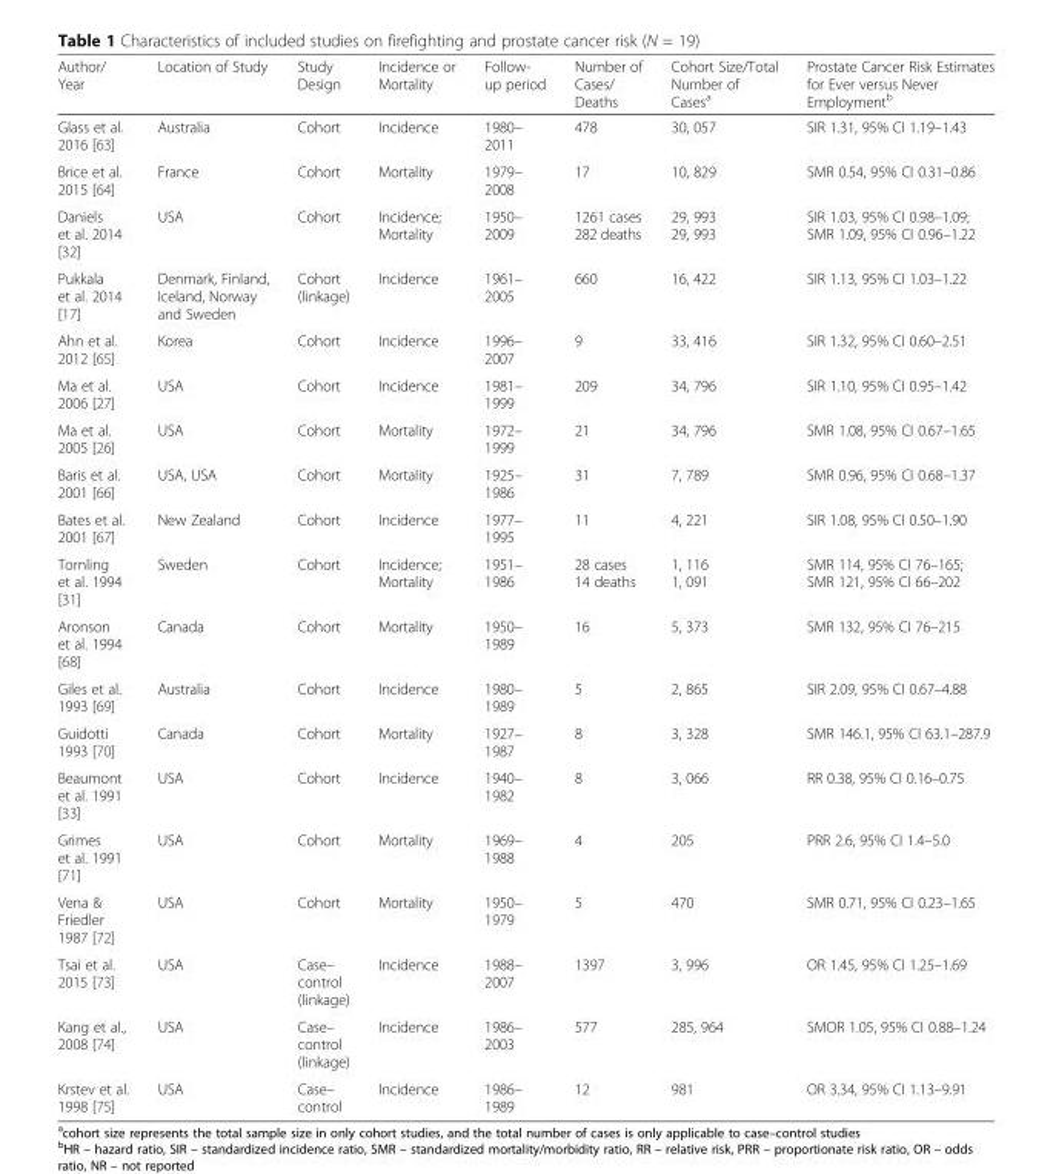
<table><thead><tr><td>Author/ Year</td><td>Location of Study</td><td>Study Design</td><td>Incidence or Mortality</td><td>Follow- up period</td><td>Number of Cases/ Deaths</td><td>Cohort Size/Total Number of Cases<sup>a</sup></td><td>Prostate Cancer Risk Estimates for Ever versus Never Employment<sup>b</sup></td></tr></thead><tbody><tr><td>Glass et al. 2016 [63]</td><td>Australia</td><td>Cohort</td><td>Incidence</td><td>1980– 2011</td><td>478</td><td>30, 057</td><td>SIR 1.31, 95% CI 1.19–1.43</td></tr><tr><td>Brice et al. 2015 [64]</td><td>France</td><td>Cohort</td><td>Mortality</td><td>1979– 2008</td><td>17</td><td>10, 829</td><td>SMR 0.54, 95% CI 0.31–0.86</td></tr><tr><td>Daniels et al. 2014 [32]</td><td>USA</td><td>Cohort</td><td>Incidence; Mortality</td><td>1950– 2009</td><td>1261 cases 282 deaths</td><td>29, 993 29, 993</td><td>SIR 1.03, 95% CI 0.98–1.09; SMR 1.09, 95% CI 0.96–1.22</td></tr><tr><td>Pukkala et al. 2014 [17]</td><td>Denmark, Finland, Iceland, Norway and Sweden</td><td>Cohort (linkage)</td><td>Incidence</td><td>1961– 2005</td><td>660</td><td>16, 422</td><td>SIR 1.13, 95% CI 1.03–1.22</td></tr><tr><td>Ahn et al. 2012 [65]</td><td>Korea</td><td>Cohort</td><td>Incidence</td><td>1996– 2007</td><td>9</td><td>33, 416</td><td>SIR 1.32, 95% CI 0.60–2.51</td></tr><tr><td>Ma et al. 2006 [27]</td><td>USA</td><td>Cohort</td><td>Incidence</td><td>1981– 1999</td><td>209</td><td>34, 796</td><td>SIR 1.10, 95% CI 0.95–1.42</td></tr><tr><td>Ma et al. 2005 [26]</td><td>USA</td><td>Cohort</td><td>Mortality</td><td>1972– 1999</td><td>21</td><td>34, 796</td><td>SMR 1.08, 95% CI 0.67–1.65</td></tr><tr><td>Baris et al. 2001 [66]</td><td>USA, USA</td><td>Cohort</td><td>Mortality</td><td>1925– 1986</td><td>31</td><td>7, 789</td><td>SMR 0.96, 95% CI 0.68–1.37</td></tr><tr><td>Bates et al. 2001 [67]</td><td>New Zealand</td><td>Cohort</td><td>Incidence</td><td>1977– 1995</td><td>11</td><td>4, 221</td><td>SIR 1.08, 95% CI 0.50–1.90</td></tr><tr><td>Tornling et al. 1994 [31]</td><td>Sweden</td><td>Cohort</td><td>Incidence; Mortality</td><td>1951– 1986</td><td>28 cases 14 deaths</td><td>1, 116 1, 091</td><td>SMR 114, 95% CI 76–165; SMR 121, 95% CI 66–202</td></tr><tr><td>Aronson et al. 1994 [68]</td><td>Canada</td><td>Cohort</td><td>Mortality</td><td>1950– 1989</td><td>16</td><td>5, 373</td><td>SMR 132, 95% CI 76–215</td></tr><tr><td>Giles et al. 1993 [69]</td><td>Australia</td><td>Cohort</td><td>Incidence</td><td>1980– 1989</td><td>5</td><td>2, 865</td><td>SIR 2.09, 95% CI 0.67–4.88</td></tr><tr><td>Guidotti 1993 [70]</td><td>Canada</td><td>Cohort</td><td>Mortality</td><td>1927– 1987</td><td>8</td><td>3, 328</td><td>SMR 146.1, 95% CI 63.1–287.9</td></tr><tr><td>Beaumont et al. 1991 [33]</td><td>USA</td><td>Cohort</td><td>Incidence</td><td>1940– 1982</td><td>8</td><td>3, 066</td><td>RR 0.38, 95% CI 0.16–0.75</td></tr><tr><td>Grimes et al. 1991 [71]</td><td>USA</td><td>Cohort</td><td>Mortality</td><td>1969– 1988</td><td>4</td><td>205</td><td>PRR 2.6, 95% CI 1.4–5.0</td></tr><tr><td>Vena &amp; Friedler 1987 [72]</td><td>USA</td><td>Cohort</td><td>Mortality</td><td>1950– 1979</td><td>5</td><td>470</td><td>SMR 0.71, 95% CI 0.23–1.65</td></tr><tr><td>Tsai et al. 2015 [73]</td><td>USA</td><td>Case– control (linkage)</td><td>Incidence</td><td>1988– 2007</td><td>1397</td><td>3, 996</td><td>OR 1.45, 95% CI 1.25–1.69</td></tr><tr><td>Kang et al., 2008 [74]</td><td>USA</td><td>Case– control (linkage)</td><td>Incidence</td><td>1986– 2003</td><td>577</td><td>285, 964</td><td>SMOR 1.05, 95% CI 0.88–1.24</td></tr><tr><td>Krstev et al. 1998 [75]</td><td>USA</td><td>Case– control</td><td>Incidence</td><td>1986– 1989</td><td>12</td><td>981</td><td>OR 3.34, 95% CI 1.13–9.91</td></tr></tbody></table>